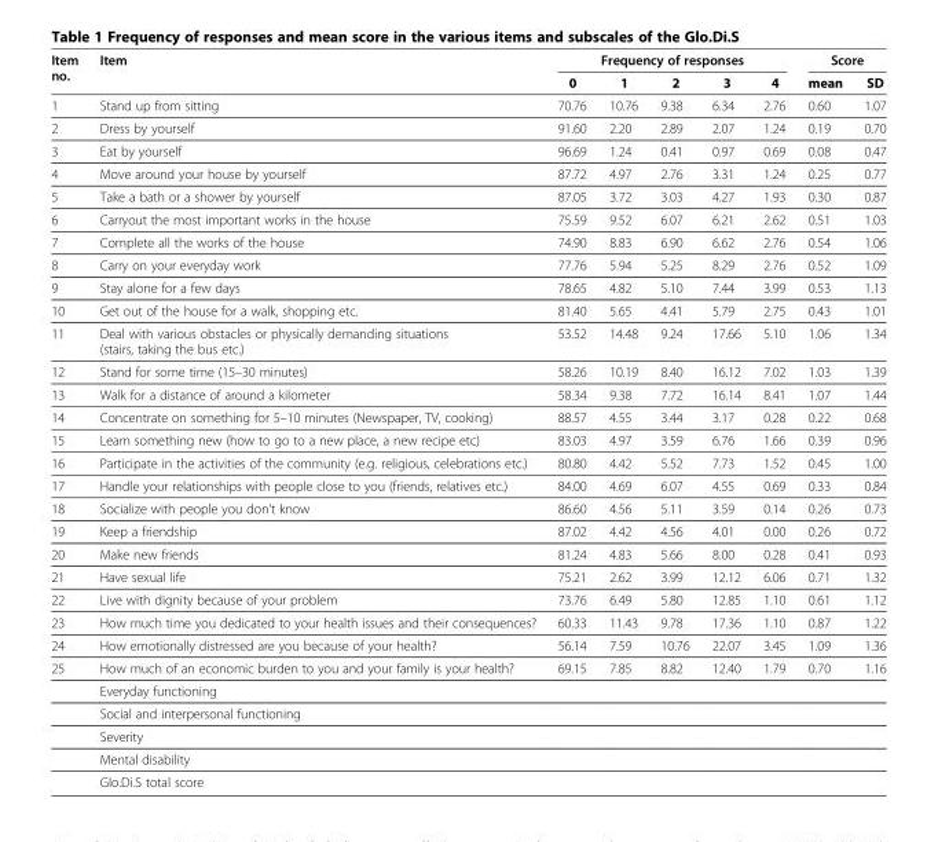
<table><thead><tr><td rowspan="2">Item no.</td><td rowspan="2">Item</td><td colspan="5">Frequency of responses</td><td colspan="2">Score</td></tr><tr><td>0</td><td>1</td><td>2</td><td>3</td><td>4</td><td>mean</td><td>SD</td></tr></thead><tbody><tr><td>1</td><td>Stand up from sitting</td><td>70.76</td><td>10.76</td><td>9.38</td><td>6.34</td><td>2.76</td><td>0.60</td><td>1.07</td></tr><tr><td>2</td><td>Dress by yourself</td><td>91.60</td><td>2.20</td><td>2.89</td><td>2.07</td><td>1.24</td><td>0.19</td><td>0.70</td></tr><tr><td>3</td><td>Eat by yourself</td><td>96.69</td><td>1.24</td><td>0.41</td><td>0.97</td><td>0.69</td><td>0.08</td><td>0.47</td></tr><tr><td>4</td><td>Move around your house by yourself</td><td>87.72</td><td>4.97</td><td>2.76</td><td>3.31</td><td>1.24</td><td>0.25</td><td>0.77</td></tr><tr><td>5</td><td>Take a bath or a shower by yourself</td><td>87.05</td><td>3.72</td><td>3.03</td><td>4.27</td><td>1.93</td><td>0.30</td><td>0.87</td></tr><tr><td>6</td><td>Carryout the most important works in the house</td><td>75.59</td><td>9.52</td><td>6.07</td><td>6.21</td><td>2.62</td><td>0.51</td><td>1.03</td></tr><tr><td>7</td><td>Complete all the works of the house</td><td>74.90</td><td>8.83</td><td>6.90</td><td>6.62</td><td>2.76</td><td>0.54</td><td>1.06</td></tr><tr><td>8</td><td>Carry on your everyday work</td><td>77.76</td><td>5.94</td><td>5.25</td><td>8.29</td><td>2.76</td><td>0.52</td><td>1.09</td></tr><tr><td>9</td><td>Stay alone for a few days</td><td>78.65</td><td>4.82</td><td>5.10</td><td>7.44</td><td>3.99</td><td>0.53</td><td>1.13</td></tr><tr><td>10</td><td>Get out of the house for a walk, shopping etc.</td><td>81.40</td><td>5.65</td><td>4.41</td><td>5.79</td><td>2.75</td><td>0.43</td><td>1.01</td></tr><tr><td>11</td><td>Deal with various obstacles or physically demanding situations (stairs, taking the bus etc.)</td><td>53.52</td><td>14.48</td><td>9.24</td><td>17.66</td><td>5.10</td><td>1.06</td><td>1.34</td></tr><tr><td>12</td><td>Stand for some time (15–30 minutes)</td><td>58.26</td><td>10.19</td><td>8.40</td><td>16.12</td><td>7.02</td><td>1.03</td><td>1.39</td></tr><tr><td>13</td><td>Walk for a distance of around a kilometer</td><td>58.34</td><td>9.38</td><td>7.72</td><td>16.14</td><td>8.41</td><td>1.07</td><td>1.44</td></tr><tr><td>14</td><td>Concentrate on something for 5–10 minutes (Newspaper, TV, cooking)</td><td>88.57</td><td>4.55</td><td>3.44</td><td>3.17</td><td>0.28</td><td>0.22</td><td>0.68</td></tr><tr><td>15</td><td>Learn something new (how to go to a new place, a new recipe etc)</td><td>83.03</td><td>4.97</td><td>3.59</td><td>6.76</td><td>1.66</td><td>0.39</td><td>0.96</td></tr><tr><td>16</td><td>Participate in the activities of the community (e.g. religious, celebrations etc.)</td><td>80.80</td><td>4.42</td><td>5.52</td><td>7.73</td><td>1.52</td><td>0.45</td><td>1.00</td></tr><tr><td>17</td><td>Handle your relationships with people close to you (friends, relatives etc.)</td><td>84.00</td><td>4.69</td><td>6.07</td><td>4.55</td><td>0.69</td><td>0.33</td><td>0.84</td></tr><tr><td>18</td><td>Socialize with people you don’t know</td><td>86.60</td><td>4.56</td><td>5.11</td><td>3.59</td><td>0.14</td><td>0.26</td><td>0.73</td></tr><tr><td>19</td><td>Keep a friendship</td><td>87.02</td><td>4.42</td><td>4.56</td><td>4.01</td><td>0.00</td><td>0.26</td><td>0.72</td></tr><tr><td>20</td><td>Make new friends</td><td>81.24</td><td>4.83</td><td>5.66</td><td>8.00</td><td>0.28</td><td>0.41</td><td>0.93</td></tr><tr><td>21</td><td>Have sexual life</td><td>75.21</td><td>2.62</td><td>3.99</td><td>12.12</td><td>6.06</td><td>0.71</td><td>1.32</td></tr><tr><td>22</td><td>Live with dignity because of your problem</td><td>73.76</td><td>6.49</td><td>5.80</td><td>12.85</td><td>1.10</td><td>0.61</td><td>1.12</td></tr><tr><td>23</td><td>How much time you dedicated to your health issues and their consequences?</td><td>60.33</td><td>11.43</td><td>9.78</td><td>17.36</td><td>1.10</td><td>0.87</td><td>1.22</td></tr><tr><td>24</td><td>How emotionally distressed are you because of your health?</td><td>56.14</td><td>7.59</td><td>10.76</td><td>22.07</td><td>3.45</td><td>1.09</td><td>1.36</td></tr><tr><td rowspan="6">25</td><td>How much of an economic burden to you and your family is your health?</td><td>69.15</td><td>7.85</td><td>8.82</td><td>12.40</td><td>1.79</td><td>0.70</td><td>1.16</td></tr><tr><td>Everyday functioning</td><td></td><td></td><td></td><td></td><td></td><td></td><td></td></tr><tr><td>Social and interpersonal functioning</td><td></td><td></td><td></td><td></td><td></td><td></td><td></td></tr><tr><td>Severity</td><td></td><td></td><td></td><td></td><td></td><td></td><td></td></tr><tr><td>Mental disability</td><td></td><td></td><td></td><td></td><td></td><td></td><td></td></tr><tr><td>Glo.Di.S total score</td><td></td><td></td><td></td><td></td><td></td><td></td><td></td></tr></tbody></table>